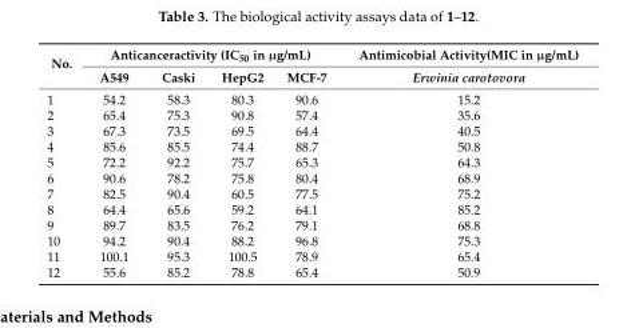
<table><thead><tr><td rowspan="2">No.</td><td colspan="4">Anticanceractivity (IC<sub>50</sub> in µg/mL)</td><td rowspan="2">Antimicobial Activity(MIC in µg/mL) Erwinia carotovora</td></tr><tr><td>A549</td><td>Caski</td><td>HepG2</td><td>MCF-7</td></tr></thead><tbody><tr><td>1</td><td>54.2</td><td>58.3</td><td>80.3</td><td>90.6</td><td>15.2</td></tr><tr><td>2</td><td>65.4</td><td>75.3</td><td>90.8</td><td>57.4</td><td>35.6</td></tr><tr><td>3</td><td>67.3</td><td>73.5</td><td>69.5</td><td>64.4</td><td>40.5</td></tr><tr><td>4</td><td>85.6</td><td>85.5</td><td>74.4</td><td>88.7</td><td>50.8</td></tr><tr><td>5</td><td>72.2</td><td>92.2</td><td>75.7</td><td>65.3</td><td>64.3</td></tr><tr><td>6</td><td>90.6</td><td>78.2</td><td>75.8</td><td>80.4</td><td>68.9</td></tr><tr><td>7</td><td>82.5</td><td>90.4</td><td>60.5</td><td>77.5</td><td>75.2</td></tr><tr><td>8</td><td>64.4</td><td>65.6</td><td>59.2</td><td>64.1</td><td>85.2</td></tr><tr><td>9</td><td>89.7</td><td>83.5</td><td>76.2</td><td>79.1</td><td>68.8</td></tr><tr><td>10</td><td>94.2</td><td>90.4</td><td>88.2</td><td>96.8</td><td>75.3</td></tr><tr><td>11</td><td>100.1</td><td>95.3</td><td>100.5</td><td>78.9</td><td>65.4</td></tr><tr><td>12</td><td>55.6</td><td>85.2</td><td>78.8</td><td>65.4</td><td>50.9</td></tr></tbody></table>